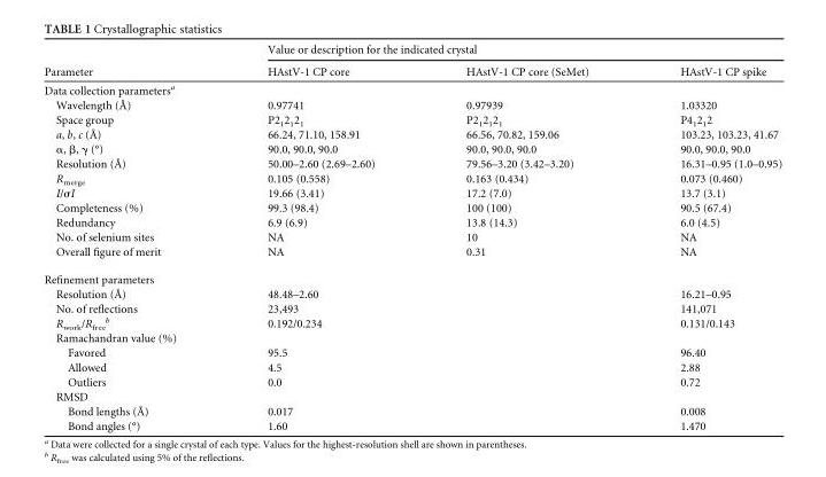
<table><thead><tr><td rowspan="2">Parameter</td><td colspan="3">Value or description for the indicated crystal</td></tr><tr><td>HAstV-1 CP core</td><td>HAstV-1 CP core (SeMet)</td><td>HAstV-1 CP spike</td></tr></thead><tbody><tr><td colspan="4">Data collection parameters<sup>a</sup></td></tr><tr><td>Wavelength (Å)</td><td>0.97741</td><td>0.97939</td><td>1.03320</td></tr><tr><td>Space group</td><td>P2<sub>1</sub>2<sub>1</sub>2<sub>1</sub></td><td>P2<sub>1</sub>2<sub>1</sub>2<sub>1</sub></td><td>P4<sub>1</sub>2<sub>1</sub>2</td></tr><tr><td>a, b, c (Å)</td><td>66.24, 71.10, 158.91</td><td>66.56, 70.82, 159.06</td><td>103.23, 103.23, 41.67</td></tr><tr><td>α, β, γ (°)</td><td>90.0, 90.0, 90.0</td><td>90.0, 90.0, 90.0</td><td>90.0, 90.0, 90.0</td></tr><tr><td>Resolution (Å)</td><td>50.00–2.60 (2.69–2.60)</td><td>79.56–3.20 (3.42–3.20)</td><td>16.31–0.95 (1.0–0.95)</td></tr><tr><td>R<sub>merge</sub></td><td>0.105 (0.558)</td><td>0.163 (0.434)</td><td>0.073 (0.460)</td></tr><tr><td>I/σI</td><td>19.66 (3.41)</td><td>17.2 (7.0)</td><td>13.7 (3.1)</td></tr><tr><td>Completeness (%)</td><td>99.3 (98.4)</td><td>100 (100)</td><td>90.5 (67.4)</td></tr><tr><td>Redundancy</td><td>6.9 (6.9)</td><td>13.8 (14.3)</td><td>6.0 (4.5)</td></tr><tr><td>No. of selenium sites</td><td>NA</td><td>10</td><td>NA</td></tr><tr><td>Overall figure of merit</td><td>NA</td><td>0.31</td><td>NA</td></tr><tr><td colspan="4">Refinement parameters</td></tr><tr><td>Resolution (Å)</td><td>48.48–2.60</td><td></td><td>16.21–0.95</td></tr><tr><td>No. of reflections</td><td>23,493</td><td></td><td>141,071</td></tr><tr><td>R<sub>work</sub>/R<sub>free</sub> <sup>b</sup></td><td>0.192/0.234</td><td></td><td>0.131/0.143</td></tr><tr><td colspan="4">Ramachandran value (%)</td></tr><tr><td>Favored</td><td>95.5</td><td></td><td>96.40</td></tr><tr><td>Allowed</td><td>4.5</td><td></td><td>2.88</td></tr><tr><td>Outliers</td><td>0.0</td><td></td><td>0.72</td></tr><tr><td colspan="4">RMSD</td></tr><tr><td>Bond lengths (Å)</td><td>0.017</td><td></td><td>0.008</td></tr><tr><td>Bond angles (°)</td><td>1.60</td><td></td><td>1.470</td></tr></tbody></table>